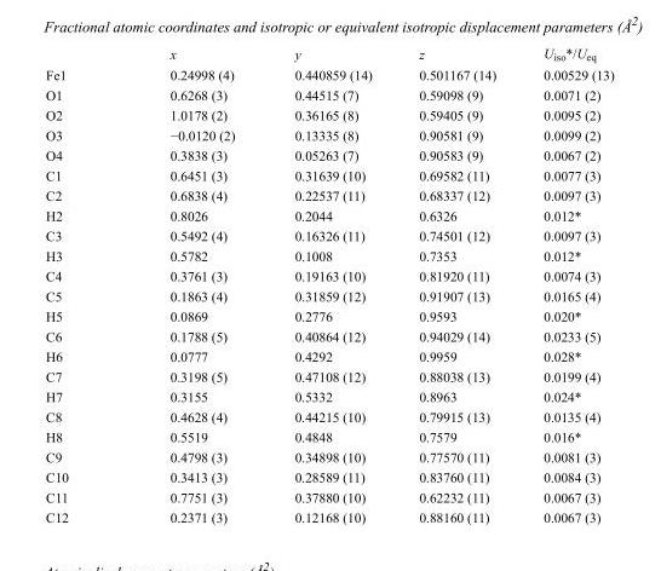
<table><thead><tr><td></td><td>x</td><td>y</td><td>z</td><td>U<sub>iso</sub>*/U<sub>eq</sub></td></tr></thead><tbody><tr><td>Fe1</td><td>0.24998 (4)</td><td>0.440859 (14)</td><td>0.501167 (14)</td><td>0.00529 (13)</td></tr><tr><td>O1</td><td>0.6268 (3)</td><td>0.44515 (7)</td><td>0.59098 (9)</td><td>0.0071 (2)</td></tr><tr><td>O2</td><td>1.0178 (2)</td><td>0.36165 (8)</td><td>0.59405 (9)</td><td>0.0095 (2)</td></tr><tr><td>O3</td><td>−0.0120 (2)</td><td>0.13335 (8)</td><td>0.90581 (9)</td><td>0.0099 (2)</td></tr><tr><td>O4</td><td>0.3838 (3)</td><td>0.05263 (7)</td><td>0.90583 (9)</td><td>0.0067 (2)</td></tr><tr><td>C1</td><td>0.6451 (3)</td><td>0.31639 (10)</td><td>0.69582 (11)</td><td>0.0077 (3)</td></tr><tr><td>C2</td><td>0.6838 (4)</td><td>0.22537 (11)</td><td>0.68337 (12)</td><td>0.0097 (3)</td></tr><tr><td>H2</td><td>0.8026</td><td>0.2044</td><td>0.6326</td><td>0.012*</td></tr><tr><td>C3</td><td>0.5492 (4)</td><td>0.16326 (11)</td><td>0.74501 (12)</td><td>0.0097 (3)</td></tr><tr><td>H3</td><td>0.5782</td><td>0.1008</td><td>0.7353</td><td>0.012*</td></tr><tr><td>C4</td><td>0.3761 (3)</td><td>0.19163 (10)</td><td>0.81920 (11)</td><td>0.0074 (3)</td></tr><tr><td>C5</td><td>0.1863 (4)</td><td>0.31859 (12)</td><td>0.91907 (13)</td><td>0.0165 (4)</td></tr><tr><td>H5</td><td>0.0869</td><td>0.2776</td><td>0.9593</td><td>0.020*</td></tr><tr><td>C6</td><td>0.1788 (5)</td><td>0.40864 (12)</td><td>0.94029 (14)</td><td>0.0233 (5)</td></tr><tr><td>H6</td><td>0.0777</td><td>0.4292</td><td>0.9959</td><td>0.028*</td></tr><tr><td>C7</td><td>0.3198 (5)</td><td>0.47108 (12)</td><td>0.88038 (13)</td><td>0.0199 (4)</td></tr><tr><td>H7</td><td>0.3155</td><td>0.5332</td><td>0.8963</td><td>0.024*</td></tr><tr><td>C8</td><td>0.4628 (4)</td><td>0.44215 (10)</td><td>0.79915 (13)</td><td>0.0135 (4)</td></tr><tr><td>H8</td><td>0.5519</td><td>0.4848</td><td>0.7579</td><td>0.016*</td></tr><tr><td>C9</td><td>0.4798 (3)</td><td>0.34898 (10)</td><td>0.77570 (11)</td><td>0.0081 (3)</td></tr><tr><td>C10</td><td>0.3413 (3)</td><td>0.28589 (11)</td><td>0.83760 (11)</td><td>0.0084 (3)</td></tr><tr><td>C11</td><td>0.7751 (3)</td><td>0.37880 (10)</td><td>0.62232 (11)</td><td>0.0067 (3)</td></tr><tr><td>C12</td><td>0.2371 (3)</td><td>0.12168 (10)</td><td>0.88160 (11)</td><td>0.0067 (3)</td></tr></tbody></table>